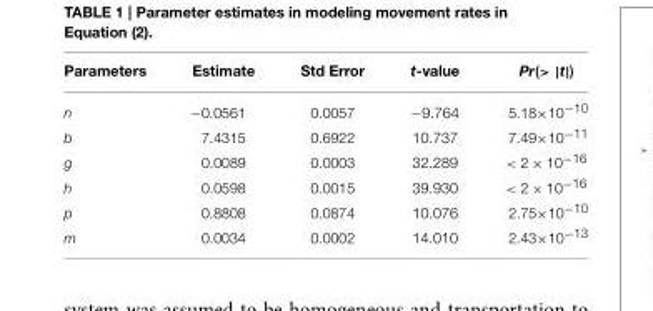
<table><thead><tr><td>Parameters</td><td>Estimate</td><td>Std Error</td><td>t-value</td><td>Pr(&gt; |t|)</td></tr></thead><tbody><tr><td>n</td><td>−0.0561</td><td>0.0057</td><td>−9.764</td><td>5.18×10<sup>−10</sup></td></tr><tr><td>b</td><td>7.4315</td><td>0.6922</td><td>10.737</td><td>7.49×10<sup>−11</sup></td></tr><tr><td>g</td><td>0.0089</td><td>0.0003</td><td>32.289</td><td>&lt; 2 × 10<sup>−16</sup></td></tr><tr><td>h</td><td>0.0598</td><td>0.0015</td><td>39.930</td><td>&lt; 2 × 10<sup>−16</sup></td></tr><tr><td>p</td><td>0.8808</td><td>0.0874</td><td>10.076</td><td>2.75×10<sup>−10</sup></td></tr><tr><td>m</td><td>0.0034</td><td>0.0002</td><td>14.010</td><td>2.43×10<sup>−13</sup></td></tr></tbody></table>